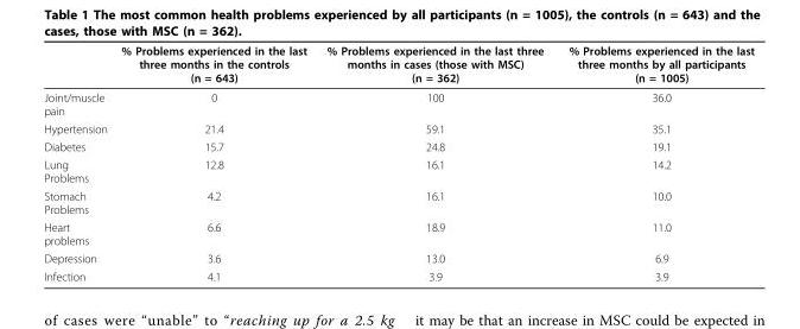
<table><thead><tr><td></td><td>% Problems experienced in the last three months in the controls (n = 643)</td><td>% Problems experienced in the last three months in cases (those with MSC) (n = 362)</td><td>% Problems experienced in the last three months by all participants (n = 1005)</td></tr></thead><tbody><tr><td>Joint/muscle pain</td><td>0</td><td>100</td><td>36.0</td></tr><tr><td>Hypertension</td><td>21.4</td><td>59.1</td><td>35.1</td></tr><tr><td>Diabetes</td><td>15.7</td><td>24.8</td><td>19.1</td></tr><tr><td>Lung Problems</td><td>12.8</td><td>16.1</td><td>14.2</td></tr><tr><td>Stomach Problems</td><td>4.2</td><td>16.1</td><td>10.0</td></tr><tr><td>Heart problems</td><td>6.6</td><td>18.9</td><td>11.0</td></tr><tr><td>Depression</td><td>3.6</td><td>13.0</td><td>6.9</td></tr><tr><td>Infection</td><td>4.1</td><td>3.9</td><td>3.9</td></tr></tbody></table>